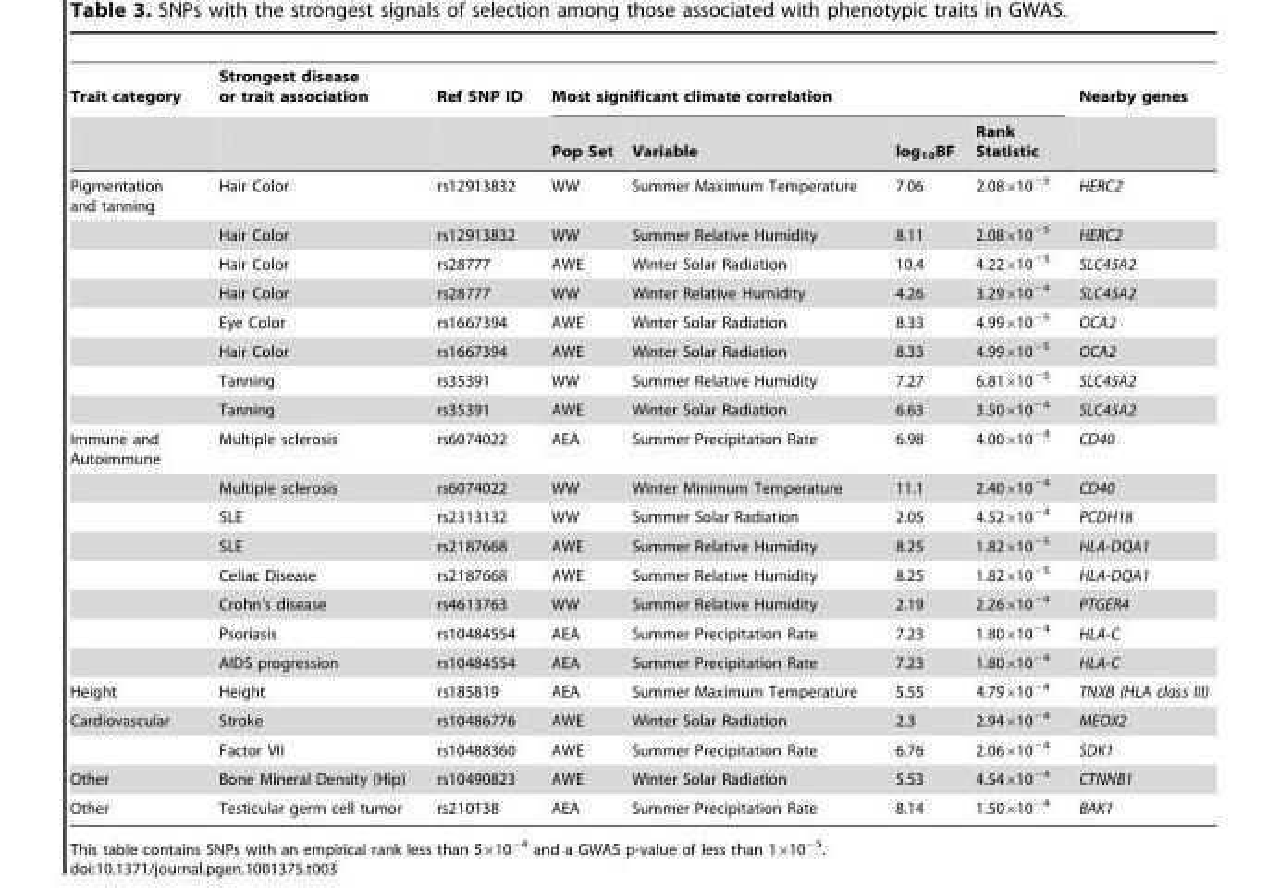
<table><thead><tr><td rowspan="2">Trait category</td><td rowspan="2">Strongest disease or trait association</td><td rowspan="2">Ref SNP ID</td><td colspan="4">Most significant climate correlation</td><td rowspan="2">Nearby genes</td></tr><tr><td>Pop Set</td><td>Variable</td><td>log<sub>10</sub>BF</td><td>Rank Statistic</td></tr></thead><tbody><tr><td rowspan="8">Pigmentation and tanning</td><td>Hair Color</td><td>rs12913832</td><td>WW</td><td>Summer Maximum Temperature</td><td>7.06</td><td>2.08×10<sup>−5</sup></td><td>HERC2</td></tr><tr><td>Hair Color</td><td>rs12913832</td><td>WW</td><td>Summer Relative Humidity</td><td>8.11</td><td>2.08×10<sup>−5</sup></td><td>HERC2</td></tr><tr><td>Hair Color</td><td>rs28777</td><td>AWE</td><td>Winter Solar Radiation</td><td>10.4</td><td>4.22×10<sup>−5</sup></td><td>SLC45A2</td></tr><tr><td>Hair Color</td><td>rs28777</td><td>WW</td><td>Winter Relative Humidity</td><td>4.26</td><td>3.29×10<sup>−4</sup></td><td>SLC45A2</td></tr><tr><td>Eye Color</td><td>rs1667394</td><td>AWE</td><td>Winter Solar Radiation</td><td>8.33</td><td>4.99×10<sup>−5</sup></td><td>OCA2</td></tr><tr><td>Hair Color</td><td>rs1667394</td><td>AWE</td><td>Winter Solar Radiation</td><td>8.33</td><td>4.99×10<sup>−5</sup></td><td>OCA2</td></tr><tr><td>Tanning</td><td>rs35391</td><td>WW</td><td>Summer Relative Humidity</td><td>7.27</td><td>6.81×10<sup>−5</sup></td><td>SLC45A2</td></tr><tr><td>Tanning</td><td>rs35391</td><td>AWE</td><td>Winter Solar Radiation</td><td>6.63</td><td>3.50×10<sup>−4</sup></td><td>SLC45A2</td></tr><tr><td rowspan="8">Immune and Autoimmune</td><td>Multiple sclerosis</td><td>rs6074022</td><td>AEA</td><td>Summer Precipitation Rate</td><td>6.98</td><td>4.00×10<sup>−4</sup></td><td>CD40</td></tr><tr><td>Multiple sclerosis</td><td>rs6074022</td><td>WW</td><td>Winter Minimum Temperature</td><td>11.1</td><td>2.40×10<sup>−4</sup></td><td>CD40</td></tr><tr><td>SLE</td><td>rs2313132</td><td>WW</td><td>Summer Solar Radiation</td><td>2.05</td><td>4.52×10<sup>−4</sup></td><td>PCDH18</td></tr><tr><td>SLE</td><td>rs2187668</td><td>AWE</td><td>Summer Relative Humidity</td><td>8.25</td><td>1.82×10<sup>−5</sup></td><td>HLA-DQA1</td></tr><tr><td>Celiac Disease</td><td>rs2187668</td><td>AWE</td><td>Summer Relative Humidity</td><td>8.25</td><td>1.82×10<sup>−5</sup></td><td>HLA-DQA1</td></tr><tr><td>Crohn’s disease</td><td>rs4613763</td><td>WW</td><td>Summer Relative Humidity</td><td>2.19</td><td>2.26×10<sup>−4</sup></td><td>PTGER4</td></tr><tr><td>Psoriasis</td><td>rs10484554</td><td>AEA</td><td>Summer Precipitation Rate</td><td>7.23</td><td>1.80×10<sup>−4</sup></td><td>HLA-C</td></tr><tr><td>AIDS progression</td><td>rs10484554</td><td>AEA</td><td>Summer Precipitation Rate</td><td>7.23</td><td>1.80×10<sup>−4</sup></td><td>HLA-C</td></tr><tr><td>Height</td><td>Height</td><td>rs185819</td><td>AEA</td><td>Summer Maximum Temperature</td><td>5.55</td><td>4.79×10<sup>−4</sup></td><td>TNXB (HLA class III)</td></tr><tr><td rowspan="2">Cardiovascular</td><td>Stroke</td><td>rs10486776</td><td>AWE</td><td>Winter Solar Radiation</td><td>2.3</td><td>2.94×10<sup>−4</sup></td><td>MEOX2</td></tr><tr><td>Factor VII</td><td>rs10488360</td><td>AWE</td><td>Summer Precipitation Rate</td><td>6.76</td><td>2.06×10<sup>−4</sup></td><td>SDK1</td></tr><tr><td>Other</td><td>Bone Mineral Density (Hip)</td><td>rs10490823</td><td>AWE</td><td>Winter Solar Radiation</td><td>5.53</td><td>4.54×10<sup>−4</sup></td><td>CTNNB1</td></tr><tr><td>Other</td><td>Testicular germ cell tumor</td><td>rs210138</td><td>AEA</td><td>Summer Precipitation Rate</td><td>8.14</td><td>1.50×10<sup>−4</sup></td><td>BAK1</td></tr></tbody></table>